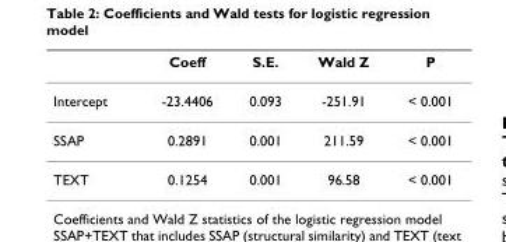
<table><thead><tr><td></td><td>Coeff</td><td>S.E.</td><td>Wald Z</td><td>P</td></tr></thead><tbody><tr><td>Intercept</td><td>-23.4406</td><td>0.093</td><td>-251.91</td><td>&lt; 0.001</td></tr><tr><td>SSAP</td><td>0.2891</td><td>0.001</td><td>211.59</td><td>&lt; 0.001</td></tr><tr><td>TEXT</td><td>0.1254</td><td>0.001</td><td>96.58</td><td>&lt; 0.001</td></tr></tbody></table>